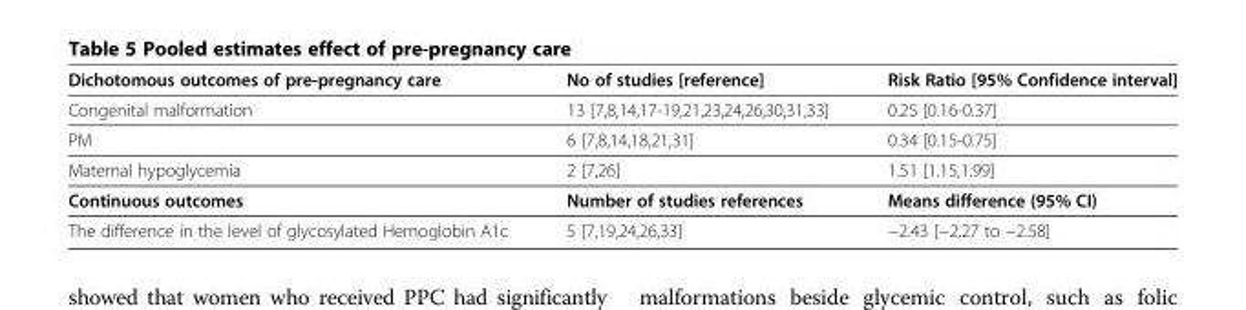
<table><thead><tr><td>Dichotomous outcomes of pre-pregnancy care</td><td>No of studies [reference]</td><td>Risk Ratio [95% Confidence interval]</td></tr></thead><tbody><tr><td>Congenital malformation</td><td>13 [7,8,14,17-19,21,23,24,26,30,31,33]</td><td>0.25 [0.16-0.37]</td></tr><tr><td>PM</td><td>6 [7,8,14,18,21,31]</td><td>0.34 [0.15-0.75]</td></tr><tr><td>Maternal hypoglycemia</td><td>2 [7,26]</td><td>1.51 [1.15,1.99]</td></tr><tr><td>Continuous outcomes</td><td>Number of studies references</td><td>Means difference (95% CI)</td></tr><tr><td>The difference in the level of glycosylated Hemoglobin A1c</td><td>5 [7,19,24,26,33]</td><td>−2.43 [−2.27 to −2.58]</td></tr></tbody></table>